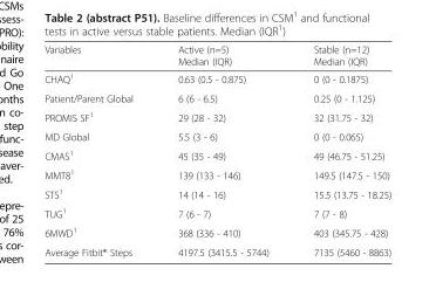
<table><thead><tr><td>Variables</td><td>Active (n=5) Median (IQR)</td><td>Stable (n=12) Median (IQR)</td></tr></thead><tbody><tr><td>CHAQ<sup>1</sup></td><td>0.63 (0.5 - 0.875)</td><td>0 (0 - 0.1875)</td></tr><tr><td>Patient/Parent Global</td><td>6 (6 - 6.5)</td><td>0.25 (0 - 1.125)</td></tr><tr><td>PROMIS SF<sup>1</sup></td><td>29 (28 - 32)</td><td>32 (31.75 - 32)</td></tr><tr><td>MD Global</td><td>5.5 (3 - 6)</td><td>0 (0 - 0.065)</td></tr><tr><td>CMAS<sup>1</sup></td><td>45 (35 - 49)</td><td>49 (46.75 - 51.25)</td></tr><tr><td>MMT8<sup>1</sup></td><td>139 (133 - 146)</td><td>149.5 (147.5 - 150)</td></tr><tr><td>STS<sup>1</sup></td><td>14 (14 - 16)</td><td>15.5 (13.75 - 18.25)</td></tr><tr><td>TUG<sup>1</sup></td><td>7 (6 - 7)</td><td>7 (7 - 8)</td></tr><tr><td>6MWD<sup>1</sup></td><td>368 (336 - 410)</td><td>403 (345.75 - 428)</td></tr><tr><td>Average Fitbit® Steps</td><td>4197.5 (3415.5 - 5744)</td><td>7135 (5460 - 8863)</td></tr></tbody></table>